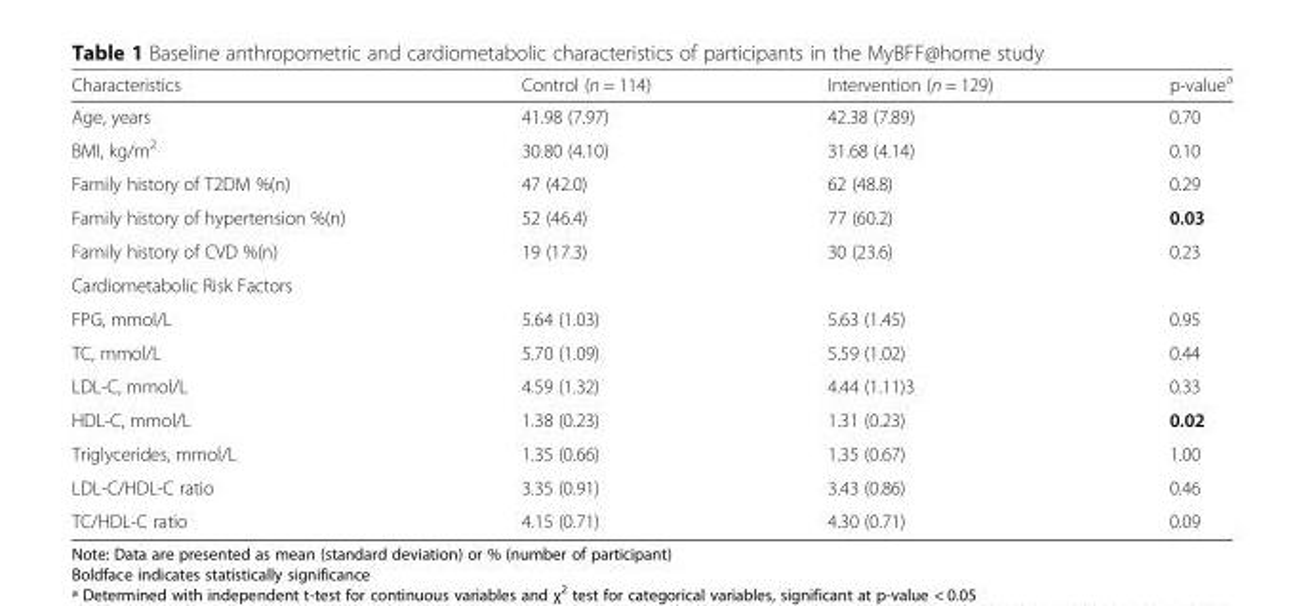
<table><thead><tr><td>Characteristics</td><td>Control (n = 114)</td><td>Intervention (n = 129)</td><td>p-value<sup>a</sup></td></tr></thead><tbody><tr><td>Age, years</td><td>41.98 (7.97)</td><td>42.38 (7.89)</td><td>0.70</td></tr><tr><td>BMI, kg/m<sup>2</sup></td><td>30.80 (4.10)</td><td>31.68 (4.14)</td><td>0.10</td></tr><tr><td>Family history of T2DM %(n)</td><td>47 (42.0)</td><td>62 (48.8)</td><td>0.29</td></tr><tr><td>Family history of hypertension %(n)</td><td>52 (46.4)</td><td>77 (60.2)</td><td>0.03</td></tr><tr><td>Family history of CVD %(n)</td><td>19 (17.3)</td><td>30 (23.6)</td><td>0.23</td></tr><tr><td colspan="4">Cardiometabolic Risk Factors</td></tr><tr><td>FPG, mmol/L</td><td>5.64 (1.03)</td><td>5.63 (1.45)</td><td>0.95</td></tr><tr><td>TC, mmol/L</td><td>5.70 (1.09)</td><td>5.59 (1.02)</td><td>0.44</td></tr><tr><td>LDL-C, mmol/L</td><td>4.59 (1.32)</td><td>4.44 (1.11)3</td><td>0.33</td></tr><tr><td>HDL-C, mmol/L</td><td>1.38 (0.23)</td><td>1.31 (0.23)</td><td>0.02</td></tr><tr><td>Triglycerides, mmol/L</td><td>1.35 (0.66)</td><td>1.35 (0.67)</td><td>1.00</td></tr><tr><td>LDL-C/HDL-C ratio</td><td>3.35 (0.91)</td><td>3.43 (0.86)</td><td>0.46</td></tr><tr><td>TC/HDL-C ratio</td><td>4.15 (0.71)</td><td>4.30 (0.71)</td><td>0.09</td></tr></tbody></table>